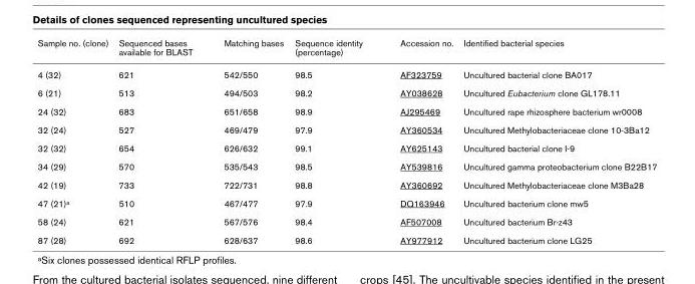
<table><thead><tr><td>Sample no. (clone)</td><td>Sequenced bases available for BLAST</td><td>Matching bases</td><td>Sequence identity (percentage)</td><td>Accession no.</td><td>Identified bacterial species</td></tr></thead><tbody><tr><td>4 (32)</td><td>621</td><td>542/550</td><td>98.5</td><td>AF323759</td><td>Uncultured bacterial clone BA017</td></tr><tr><td>6 (21)</td><td>513</td><td>494/503</td><td>98.2</td><td>AY038628</td><td>Uncultured Eubacterium clone GL178.11</td></tr><tr><td>24 (32)</td><td>683</td><td>651/658</td><td>98.9</td><td>AJ295469</td><td>Uncultured rape rhizosphere bacterium wr0008</td></tr><tr><td>32 (24)</td><td>527</td><td>469/479</td><td>97.9</td><td>AY360534</td><td>Uncultured Methylobacteriaceae clone 10-3Ba12</td></tr><tr><td>32 (32)</td><td>654</td><td>626/632</td><td>99.1</td><td>AY625143</td><td>Uncultured bacterial clone I-9</td></tr><tr><td>34 (29)</td><td>570</td><td>535/543</td><td>98.5</td><td>AY539816</td><td>Uncultured gamma proteobacterium clone B22B17</td></tr><tr><td>42 (19)</td><td>733</td><td>722/731</td><td>98.8</td><td>AY360692</td><td>Uncultured Methylobacteriaceae clone M3Ba28</td></tr><tr><td>47 (21)<sup>a</sup></td><td>510</td><td>467/477</td><td>97.9</td><td>DQ163946</td><td>Uncultured bacterium clone mw5</td></tr><tr><td>58 (24)</td><td>621</td><td>567/576</td><td>98.4</td><td>AF507008</td><td>Uncultured bacterium Br-z43</td></tr><tr><td>87 (28)</td><td>692</td><td>628/637</td><td>98.6</td><td>AY977912</td><td>Uncultured bacterium clone LG25</td></tr></tbody></table>